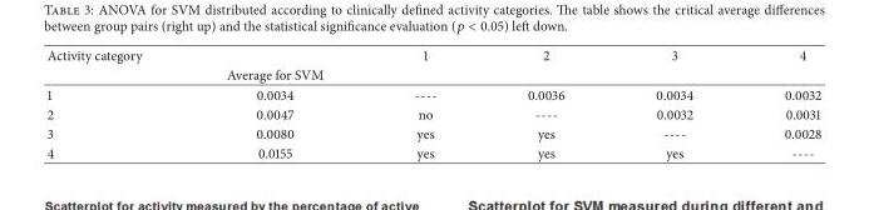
<table><thead><tr><td rowspan="2">Activity category</td><td rowspan="2">Average for SVM</td><td rowspan="2">1</td><td rowspan="2">2</td><td rowspan="2">3</td><td rowspan="2">4</td></tr><tr></tr></thead><tbody><tr><td>1</td><td>0.0034</td><td>----</td><td>0.0036</td><td>0.0034</td><td>0.0032</td></tr><tr><td>2</td><td>0.0047</td><td>no</td><td>----</td><td>0.0032</td><td>0.0031</td></tr><tr><td>3</td><td>0.0080</td><td>yes</td><td>yes</td><td>----</td><td>0.0028</td></tr><tr><td>4</td><td>0.0155</td><td>yes</td><td>yes</td><td>yes</td><td>----</td></tr></tbody></table>